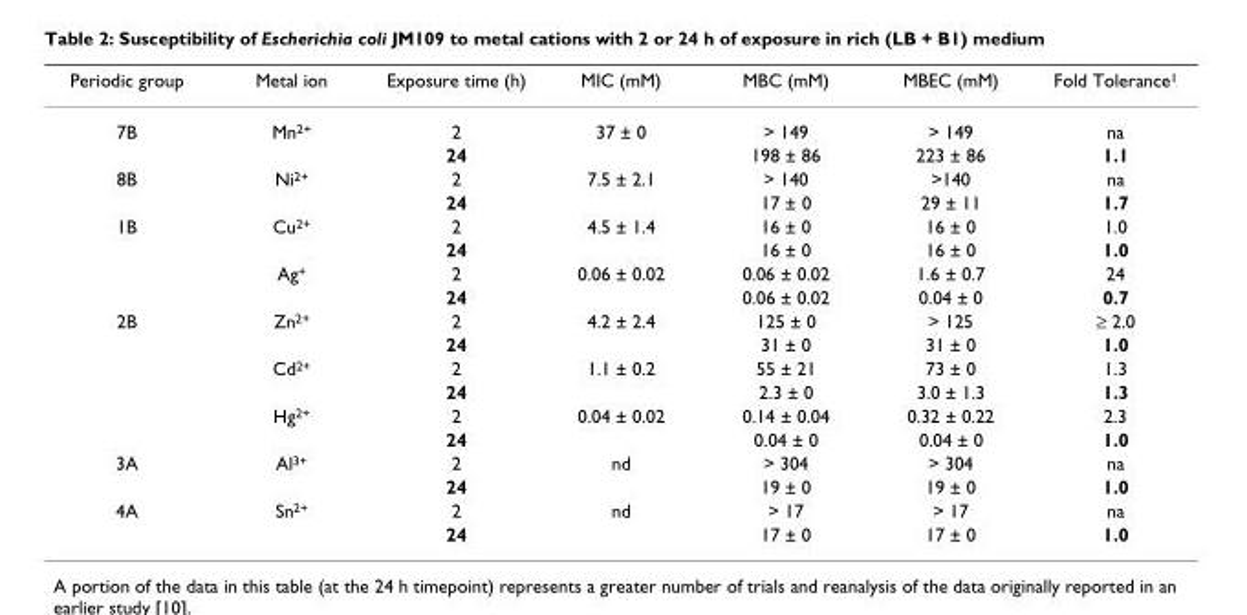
<table><thead><tr><td>Periodic group</td><td>Metal ion</td><td>Exposure time (h)</td><td>MIC (mM)</td><td>MBC (mM)</td><td>MBEC (mM)</td><td>Fold Tolerance1</td></tr></thead><tbody><tr><td rowspan="2">7B</td><td>Mn2+</td><td>2</td><td>37 ± 0</td><td>&gt; 149</td><td>&gt; 149</td><td>na</td></tr><tr><td></td><td>24</td><td></td><td>198 ± 86</td><td>223 ± 86</td><td>1.1</td></tr><tr><td rowspan="2">8B</td><td>Ni2+</td><td>2</td><td>7.5 ± 2.1</td><td>&gt; 140</td><td>&gt;140</td><td>na</td></tr><tr><td></td><td>24</td><td></td><td>17 ± 0</td><td>29 ± 11</td><td>1.7</td></tr><tr><td rowspan="4">1B</td><td>Cu2+</td><td>2</td><td>4.5 ± 1.4</td><td>16 ± 0</td><td>16 ± 0</td><td>1.0</td></tr><tr><td></td><td>24</td><td></td><td>16 ± 0</td><td>16 ± 0</td><td>1.0</td></tr><tr><td>Ag+</td><td>2</td><td>0.06 ± 0.02</td><td>0.06 ± 0.02</td><td>1.6 ± 0.7</td><td>24</td></tr><tr><td></td><td>24</td><td></td><td>0.06 ± 0.02</td><td>0.04 ± 0</td><td>0.7</td></tr><tr><td rowspan="6">2B</td><td>Zn2+</td><td>2</td><td>4.2 ± 2.4</td><td>125 ± 0</td><td>&gt; 125</td><td>≥ 2.0</td></tr><tr><td></td><td>24</td><td></td><td>31 ± 0</td><td>31 ± 0</td><td>1.0</td></tr><tr><td>Cd2+</td><td>2</td><td>1.1 ± 0.2</td><td>55 ± 21</td><td>73 ± 0</td><td>1.3</td></tr><tr><td></td><td>24</td><td></td><td>2.3 ± 0</td><td>3.0 ± 1.3</td><td>1.3</td></tr><tr><td>Hg2+</td><td>2</td><td>0.04 ± 0.02</td><td>0.14 ± 0.04</td><td>0.32 ± 0.22</td><td>2.3</td></tr><tr><td></td><td>24</td><td></td><td>0.04 ± 0</td><td>0.04 ± 0</td><td>1.0</td></tr><tr><td rowspan="2">3A</td><td>Al3+</td><td>2</td><td>nd</td><td>&gt; 304</td><td>&gt; 304</td><td>na</td></tr><tr><td></td><td>24</td><td></td><td>19 ± 0</td><td>19 ± 0</td><td>1.0</td></tr><tr><td rowspan="2">4A</td><td>Sn2+</td><td>2</td><td>nd</td><td>&gt; 17</td><td>&gt; 17</td><td>na</td></tr><tr><td></td><td>24</td><td></td><td>17 ± 0</td><td>17 ± 0</td><td>1.0</td></tr></tbody></table>